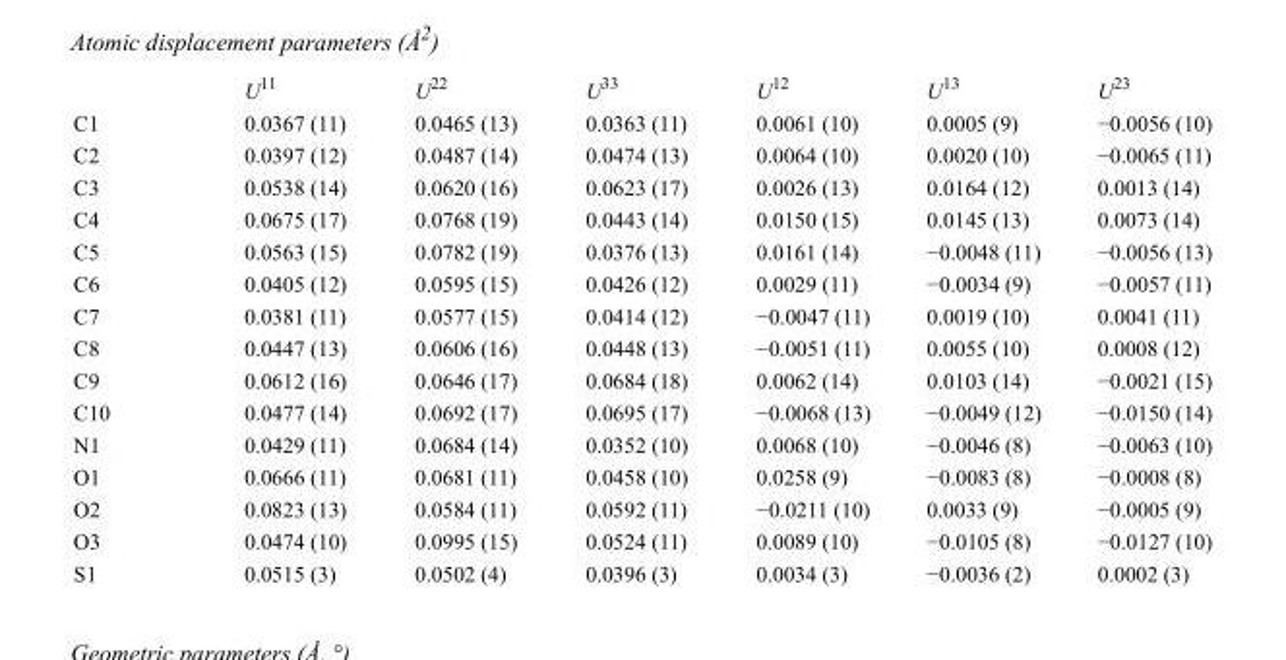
<table><thead><tr><td></td><td>U<sup>11</sup></td><td>U<sup>22</sup></td><td>U<sup>33</sup></td><td>U<sup>12</sup></td><td>U<sup>13</sup></td><td>U<sup>23</sup></td></tr></thead><tbody><tr><td>C1</td><td>0.0367 (11)</td><td>0.0465 (13)</td><td>0.0363 (11)</td><td>0.0061 (10)</td><td>0.0005 (9)</td><td>−0.0056 (10)</td></tr><tr><td>C2</td><td>0.0397 (12)</td><td>0.0487 (14)</td><td>0.0474 (13)</td><td>0.0064 (10)</td><td>0.0020 (10)</td><td>−0.0065 (11)</td></tr><tr><td>C3</td><td>0.0538 (14)</td><td>0.0620 (16)</td><td>0.0623 (17)</td><td>0.0026 (13)</td><td>0.0164 (12)</td><td>0.0013 (14)</td></tr><tr><td>C4</td><td>0.0675 (17)</td><td>0.0768 (19)</td><td>0.0443 (14)</td><td>0.0150 (15)</td><td>0.0145 (13)</td><td>0.0073 (14)</td></tr><tr><td>C5</td><td>0.0563 (15)</td><td>0.0782 (19)</td><td>0.0376 (13)</td><td>0.0161 (14)</td><td>−0.0048 (11)</td><td>−0.0056 (13)</td></tr><tr><td>C6</td><td>0.0405 (12)</td><td>0.0595 (15)</td><td>0.0426 (12)</td><td>0.0029 (11)</td><td>−0.0034 (9)</td><td>−0.0057 (11)</td></tr><tr><td>C7</td><td>0.0381 (11)</td><td>0.0577 (15)</td><td>0.0414 (12)</td><td>−0.0047 (11)</td><td>0.0019 (10)</td><td>0.0041 (11)</td></tr><tr><td>C8</td><td>0.0447 (13)</td><td>0.0606 (16)</td><td>0.0448 (13)</td><td>−0.0051 (11)</td><td>0.0055 (10)</td><td>0.0008 (12)</td></tr><tr><td>C9</td><td>0.0612 (16)</td><td>0.0646 (17)</td><td>0.0684 (18)</td><td>0.0062 (14)</td><td>0.0103 (14)</td><td>−0.0021 (15)</td></tr><tr><td>C10</td><td>0.0477 (14)</td><td>0.0692 (17)</td><td>0.0695 (17)</td><td>−0.0068 (13)</td><td>−0.0049 (12)</td><td>−0.0150 (14)</td></tr><tr><td>N1</td><td>0.0429 (11)</td><td>0.0684 (14)</td><td>0.0352 (10)</td><td>0.0068 (10)</td><td>−0.0046 (8)</td><td>−0.0063 (10)</td></tr><tr><td>O1</td><td>0.0666 (11)</td><td>0.0681 (11)</td><td>0.0458 (10)</td><td>0.0258 (9)</td><td>−0.0083 (8)</td><td>−0.0008 (8)</td></tr><tr><td>O2</td><td>0.0823 (13)</td><td>0.0584 (11)</td><td>0.0592 (11)</td><td>−0.0211 (10)</td><td>0.0033 (9)</td><td>−0.0005 (9)</td></tr><tr><td>O3</td><td>0.0474 (10)</td><td>0.0995 (15)</td><td>0.0524 (11)</td><td>0.0089 (10)</td><td>−0.0105 (8)</td><td>−0.0127 (10)</td></tr><tr><td>S1</td><td>0.0515 (3)</td><td>0.0502 (4)</td><td>0.0396 (3)</td><td>0.0034 (3)</td><td>−0.0036 (2)</td><td>0.0002 (3)</td></tr></tbody></table>